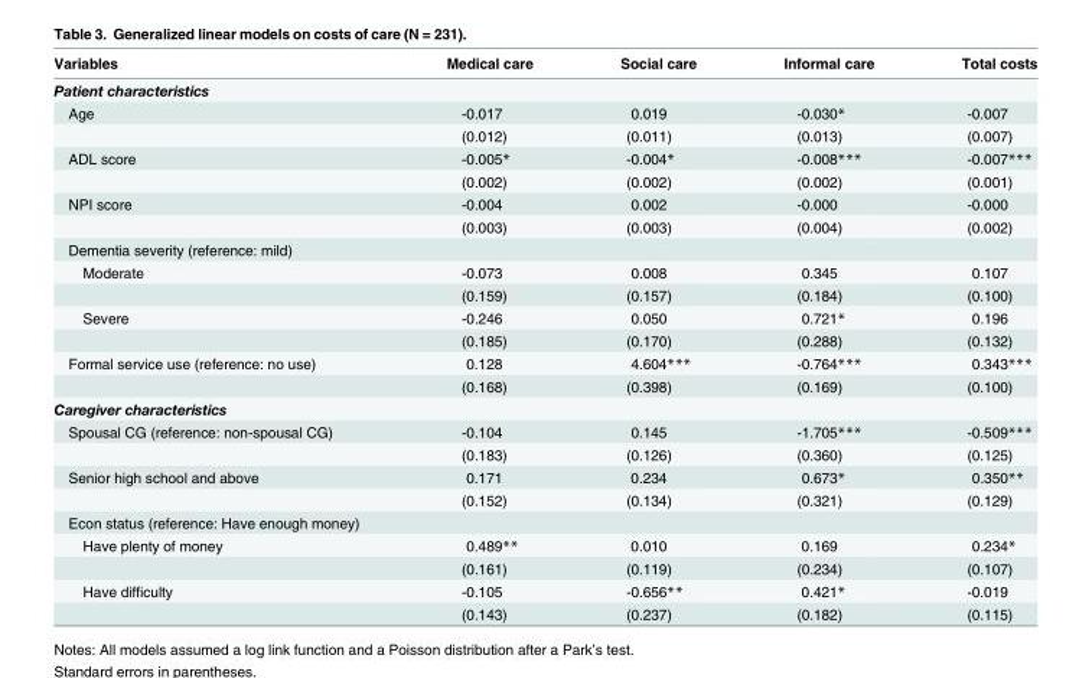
<table><thead><tr><td>Variables</td><td>Medical care</td><td>Social care</td><td>Informal care</td><td>Total costs</td></tr></thead><tbody><tr><td colspan="5">Patient characteristics</td></tr><tr><td rowspan="2">Age</td><td>-0.017</td><td>0.019</td><td>-0.030*</td><td>-0.007</td></tr><tr><td>(0.012)</td><td>(0.011)</td><td>(0.013)</td><td>(0.007)</td></tr><tr><td rowspan="2">ADL score</td><td>-0.005*</td><td>-0.004*</td><td>-0.008***</td><td>-0.007***</td></tr><tr><td>(0.002)</td><td>(0.002)</td><td>(0.002)</td><td>(0.001)</td></tr><tr><td rowspan="2">NPI score</td><td>-0.004</td><td>0.002</td><td>-0.000</td><td>-0.000</td></tr><tr><td>(0.003)</td><td>(0.003)</td><td>(0.004)</td><td>(0.002)</td></tr><tr><td colspan="5">Dementia severity (reference: mild)</td></tr><tr><td rowspan="2">Moderate</td><td>-0.073</td><td>0.008</td><td>0.345</td><td>0.107</td></tr><tr><td>(0.159)</td><td>(0.157)</td><td>(0.184)</td><td>(0.100)</td></tr><tr><td rowspan="2">Severe</td><td>-0.246</td><td>0.050</td><td>0.721*</td><td>0.196</td></tr><tr><td>(0.185)</td><td>(0.170)</td><td>(0.288)</td><td>(0.132)</td></tr><tr><td rowspan="2">Formal service use (reference: no use)</td><td>0.128</td><td>4.604***</td><td>-0.764***</td><td>0.343***</td></tr><tr><td>(0.168)</td><td>(0.398)</td><td>(0.169)</td><td>(0.100)</td></tr><tr><td colspan="5">Caregiver characteristics</td></tr><tr><td rowspan="2">Spousal CG (reference: non-spousal CG)</td><td>-0.104</td><td>0.145</td><td>-1.705***</td><td>-0.509***</td></tr><tr><td>(0.183)</td><td>(0.126)</td><td>(0.360)</td><td>(0.125)</td></tr><tr><td rowspan="2">Senior high school and above</td><td>0.171</td><td>0.234</td><td>0.673*</td><td>0.350**</td></tr><tr><td>(0.152)</td><td>(0.134)</td><td>(0.321)</td><td>(0.129)</td></tr><tr><td colspan="5">Econ status (reference: Have enough money)</td></tr><tr><td rowspan="2">Have plenty of money</td><td>0.489**</td><td>0.010</td><td>0.169</td><td>0.234*</td></tr><tr><td>(0.161)</td><td>(0.119)</td><td>(0.234)</td><td>(0.107)</td></tr><tr><td rowspan="2">Have difficulty</td><td>-0.105</td><td>-0.656**</td><td>0.421*</td><td>-0.019</td></tr><tr><td>(0.143)</td><td>(0.237)</td><td>(0.182)</td><td>(0.115)</td></tr></tbody></table>